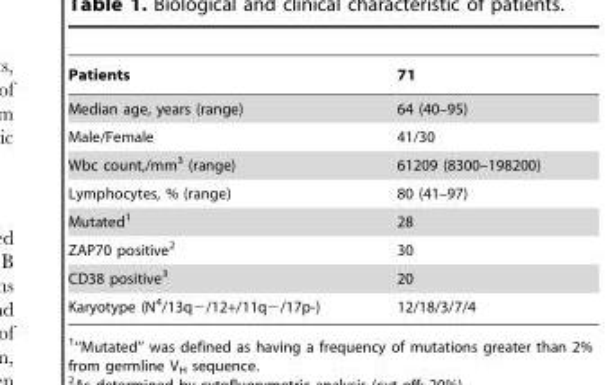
<table><thead><tr><td>Patients</td><td>71</td></tr></thead><tbody><tr><td>Median age, years (range)</td><td>64 (40–95)</td></tr><tr><td>Male/Female</td><td>41/30</td></tr><tr><td>Wbc count,/mm<sup>3</sup> (range)</td><td>61209 (8300–198200)</td></tr><tr><td>Lymphocytes, % (range)</td><td>80 (41–97)</td></tr><tr><td>Mutated<sup>1</sup></td><td>28</td></tr><tr><td>ZAP70 positive<sup>2</sup></td><td>30</td></tr><tr><td>CD38 positive<sup>3</sup></td><td>20</td></tr><tr><td>Karyotype (N<sup>4</sup>/13q−/12+/11q−/17p-)</td><td>12/18/3/7/4</td></tr></tbody></table>